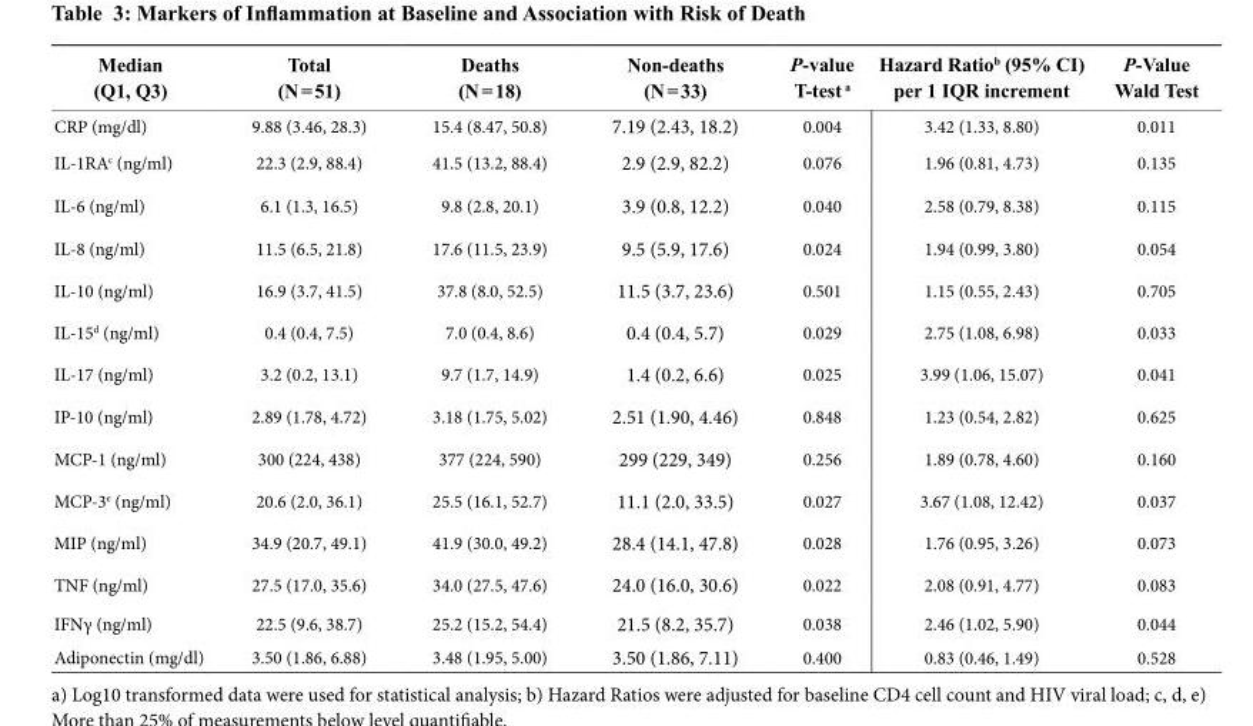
<table><thead><tr><td>Median (Q1, Q3)</td><td>Total (N = 51)</td><td>Deaths (N = 18)</td><td>Non-deaths (N = 33)</td><td>P-value T-test <sup>a</sup></td><td>Hazard Ratio<sup>b</sup> (95% CI) per 1 IQR increment</td><td>P-Value Wald Test</td></tr></thead><tbody><tr><td>CRP (mg/dl)</td><td>9.88 (3.46, 28.3)</td><td>15.4 (8.47, 50.8)</td><td>7.19 (2.43, 18.2)</td><td>0.004</td><td>3.42 (1.33, 8.80)</td><td>0.011</td></tr><tr><td>IL-1RA<sup>c</sup> (ng/ml)</td><td>22.3 (2.9, 88.4)</td><td>41.5 (13.2, 88.4)</td><td>2.9 (2.9, 82.2)</td><td>0.076</td><td>1.96 (0.81, 4.73)</td><td>0.135</td></tr><tr><td>IL-6 (ng/ml)</td><td>6.1 (1.3, 16.5)</td><td>9.8 (2.8, 20.1)</td><td>3.9 (0.8, 12.2)</td><td>0.040</td><td>2.58 (0.79, 8.38)</td><td>0.115</td></tr><tr><td>IL-8 (ng/ml)</td><td>11.5 (6.5, 21.8)</td><td>17.6 (11.5, 23.9)</td><td>9.5 (5.9, 17.6)</td><td>0.024</td><td>1.94 (0.99, 3.80)</td><td>0.054</td></tr><tr><td>IL-10 (ng/ml)</td><td>16.9 (3.7, 41.5)</td><td>37.8 (8.0, 52.5)</td><td>11.5 (3.7, 23.6)</td><td>0.501</td><td>1.15 (0.55, 2.43)</td><td>0.705</td></tr><tr><td>IL-15<sup>d</sup> (ng/ml)</td><td>0.4 (0.4, 7.5)</td><td>7.0 (0.4, 8.6)</td><td>0.4 (0.4, 5.7)</td><td>0.029</td><td>2.75 (1.08, 6.98)</td><td>0.033</td></tr><tr><td>IL-17 (ng/ml)</td><td>3.2 (0.2, 13.1)</td><td>9.7 (1.7, 14.9)</td><td>1.4 (0.2, 6.6)</td><td>0.025</td><td>3.99 (1.06, 15.07)</td><td>0.041</td></tr><tr><td>IP-10 (ng/ml)</td><td>2.89 (1.78, 4.72)</td><td>3.18 (1.75, 5.02)</td><td>2.51 (1.90, 4.46)</td><td>0.848</td><td>1.23 (0.54, 2.82)</td><td>0.625</td></tr><tr><td>MCP-1 (ng/ml)</td><td>300 (224, 438)</td><td>377 (224, 590)</td><td>299 (229, 349)</td><td>0.256</td><td>1.89 (0.78, 4.60)</td><td>0.160</td></tr><tr><td>MCP-3<sup>e</sup> (ng/ml)</td><td>20.6 (2.0, 36.1)</td><td>25.5 (16.1, 52.7)</td><td>11.1 (2.0, 33.5)</td><td>0.027</td><td>3.67 (1.08, 12.42)</td><td>0.037</td></tr><tr><td>MIP (ng/ml)</td><td>34.9 (20.7, 49.1)</td><td>41.9 (30.0, 49.2)</td><td>28.4 (14.1, 47.8)</td><td>0.028</td><td>1.76 (0.95, 3.26)</td><td>0.073</td></tr><tr><td>TNF (ng/ml)</td><td>27.5 (17.0, 35.6)</td><td>34.0 (27.5, 47.6)</td><td>24.0 (16.0, 30.6)</td><td>0.022</td><td>2.08 (0.91, 4.77)</td><td>0.083</td></tr><tr><td>IFNγ (ng/ml)</td><td>22.5 (9.6, 38.7)</td><td>25.2 (15.2, 54.4)</td><td>21.5 (8.2, 35.7)</td><td>0.038</td><td>2.46 (1.02, 5.90)</td><td>0.044</td></tr><tr><td>Adiponectin (mg/dl)</td><td>3.50 (1.86, 6.88)</td><td>3.48 (1.95, 5.00)</td><td>3.50 (1.86, 7.11)</td><td>0.400</td><td>0.83 (0.46, 1.49)</td><td>0.528</td></tr></tbody></table>